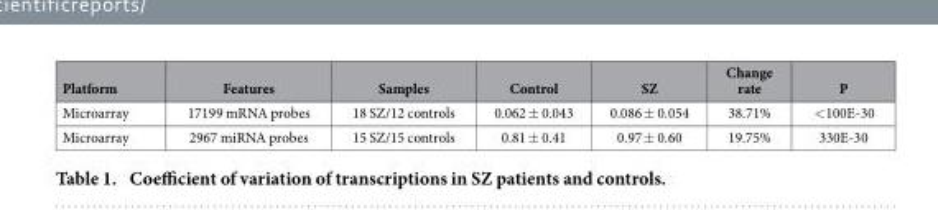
<table><thead><tr><td>Platform</td><td>Features</td><td>Samples</td><td>Control</td><td>SZ</td><td>Change rate</td><td>P</td></tr></thead><tbody><tr><td>Microarray</td><td>17199 mRNA probes</td><td>18 SZ/12 controls</td><td>0.062 ± 0.043</td><td>0.086 ± 0.054</td><td>38.71%</td><td>&lt;100E-30</td></tr><tr><td>Microarray</td><td>2967 miRNA probes</td><td>15 SZ/15 controls</td><td>0.81 ± 0.41</td><td>0.97 ± 0.60</td><td>19.75%</td><td>330E-30</td></tr></tbody></table>